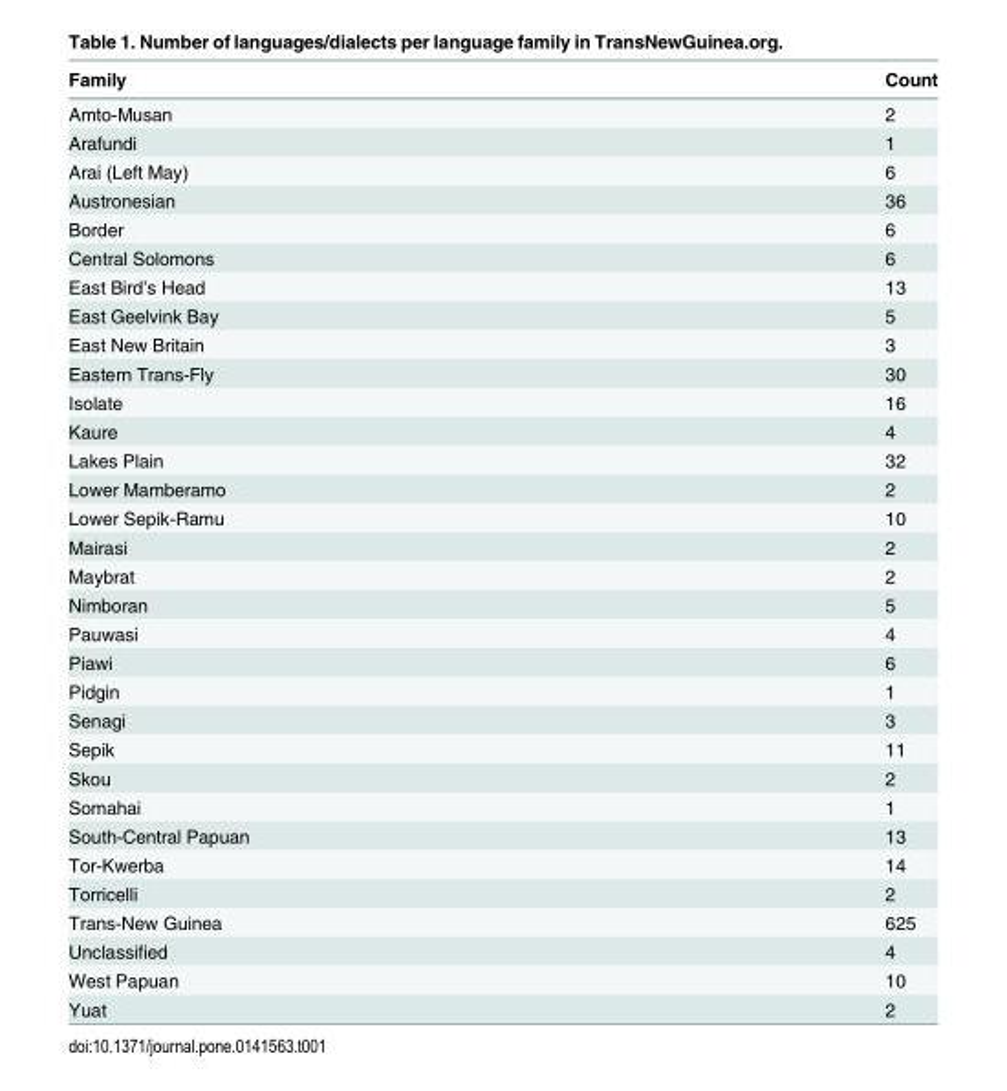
<table><thead><tr><td>Family</td><td>Count</td></tr></thead><tbody><tr><td>Amto-Musan</td><td>2</td></tr><tr><td>Arafundi</td><td>1</td></tr><tr><td>Arai (Left May)</td><td>6</td></tr><tr><td>Austronesian</td><td>36</td></tr><tr><td>Border</td><td>6</td></tr><tr><td>Central Solomons</td><td>6</td></tr><tr><td>East Bird’s Head</td><td>13</td></tr><tr><td>East Geelvink Bay</td><td>5</td></tr><tr><td>East New Britain</td><td>3</td></tr><tr><td>Eastern Trans-Fly</td><td>30</td></tr><tr><td>Isolate</td><td>16</td></tr><tr><td>Kaure</td><td>4</td></tr><tr><td>Lakes Plain</td><td>32</td></tr><tr><td>Lower Mamberamo</td><td>2</td></tr><tr><td>Lower Sepik-Ramu</td><td>10</td></tr><tr><td>Mairasi</td><td>2</td></tr><tr><td>Maybrat</td><td>2</td></tr><tr><td>Nimboran</td><td>5</td></tr><tr><td>Pauwasi</td><td>4</td></tr><tr><td>Piawi</td><td>6</td></tr><tr><td>Pidgin</td><td>1</td></tr><tr><td>Senagi</td><td>3</td></tr><tr><td>Sepik</td><td>11</td></tr><tr><td>Skou</td><td>2</td></tr><tr><td>Somahai</td><td>1</td></tr><tr><td>South-Central Papuan</td><td>13</td></tr><tr><td>Tor-Kwerba</td><td>14</td></tr><tr><td>Torricelli</td><td>2</td></tr><tr><td>Trans-New Guinea</td><td>625</td></tr><tr><td>Unclassified</td><td>4</td></tr><tr><td>West Papuan</td><td>10</td></tr><tr><td>Yuat</td><td>2</td></tr></tbody></table>